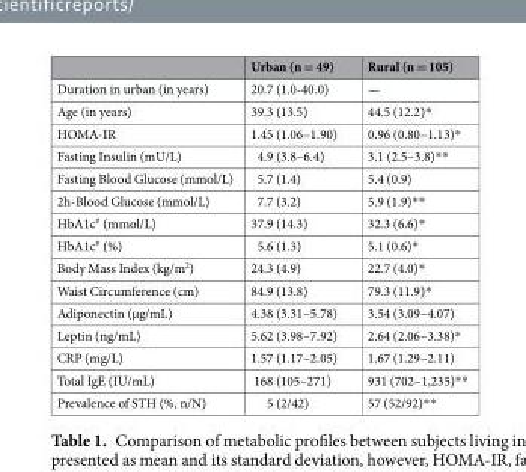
<table><thead><tr><td></td><td>Urban (n = 49)</td><td>Rural (n = 105)</td></tr></thead><tbody><tr><td>Duration in urban (in years)</td><td>20.7 (1.0-40.0)</td><td>—</td></tr><tr><td>Age (in years)</td><td>39.3 (13.5)</td><td>44.5 (12.2)*</td></tr><tr><td>HOMA-IR</td><td>1.45 (1.06–1.90)</td><td>0.96 (0.80–1.13)*</td></tr><tr><td>Fasting Insulin (mU/L)</td><td>4.9 (3.8–6.4)</td><td>3.1 (2.5–3.8)**</td></tr><tr><td>Fasting Blood Glucose (mmol/L)</td><td>5.7 (1.4)</td><td>5.4 (0.9)</td></tr><tr><td>2h-Blood Glucose (mmol/L)</td><td>7.7 (3.2)</td><td>5.9 (1.9)**</td></tr><tr><td>HbA1c<sup>#</sup> (mmol/L)</td><td>37.9 (14.3)</td><td>32.3 (6.6)*</td></tr><tr><td>HbA1c<sup>#</sup> (%)</td><td>5.6 (1.3)</td><td>5.1 (0.6)*</td></tr><tr><td>Body Mass Index (kg/m<sup>2</sup>)</td><td>24.3 (4.9)</td><td>22.7 (4.0)*</td></tr><tr><td>Waist Circumference (cm)</td><td>84.9 (13.8)</td><td>79.3 (11.9)*</td></tr><tr><td>Adiponectin (µg/mL)</td><td>4.38 (3.31–5.78)</td><td>3.54 (3.09–4.07)</td></tr><tr><td>Leptin (ng/mL)</td><td>5.62 (3.98–7.92)</td><td>2.64 (2.06–3.38)*</td></tr><tr><td>CRP (mg/L)</td><td>1.57 (1.17–2.05)</td><td>1.67 (1.29–2.11)</td></tr><tr><td>Total IgE (IU/mL)</td><td>168 (105–271)</td><td>931 (702–1,235)**</td></tr><tr><td>Prevalence of STH (%, n/N)</td><td>5 (2/42)</td><td>57 (52/92)**</td></tr></tbody></table>